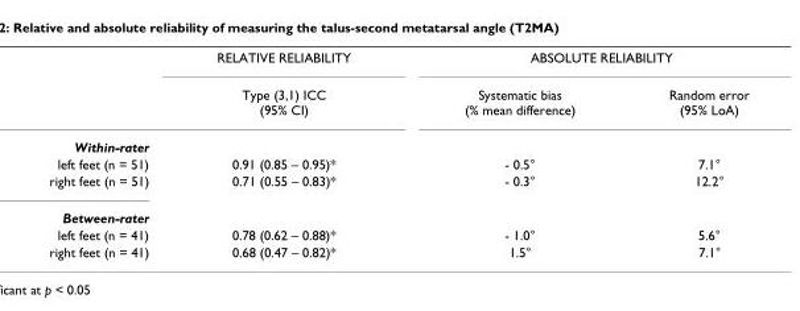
<table><thead><tr><td rowspan="2"></td><td rowspan="2">RELATIVE RELIABILITY Type (3,1) ICC (95% CI)</td><td colspan="2">ABSOLUTE RELIABILITY</td></tr><tr><td>Systematic bias (% mean difference)</td><td>Random error (95% LoA)</td></tr></thead><tbody><tr><td colspan="4">Within-rater</td></tr><tr><td>left feet (n = 51)</td><td>0.91 (0.85 – 0.95)*</td><td>- 0.5°</td><td>7.1°</td></tr><tr><td>right feet (n = 51)</td><td>0.71 (0.55 – 0.83)*</td><td>- 0.3°</td><td>12.2°</td></tr><tr><td colspan="4">Between-rater</td></tr><tr><td>left feet (n = 41)</td><td>0.78 (0.62 – 0.88)*</td><td>- 1.0°</td><td>5.6°</td></tr><tr><td>right feet (n = 41)</td><td>0.68 (0.47 – 0.82)*</td><td>1.5°</td><td>7.1°</td></tr></tbody></table>